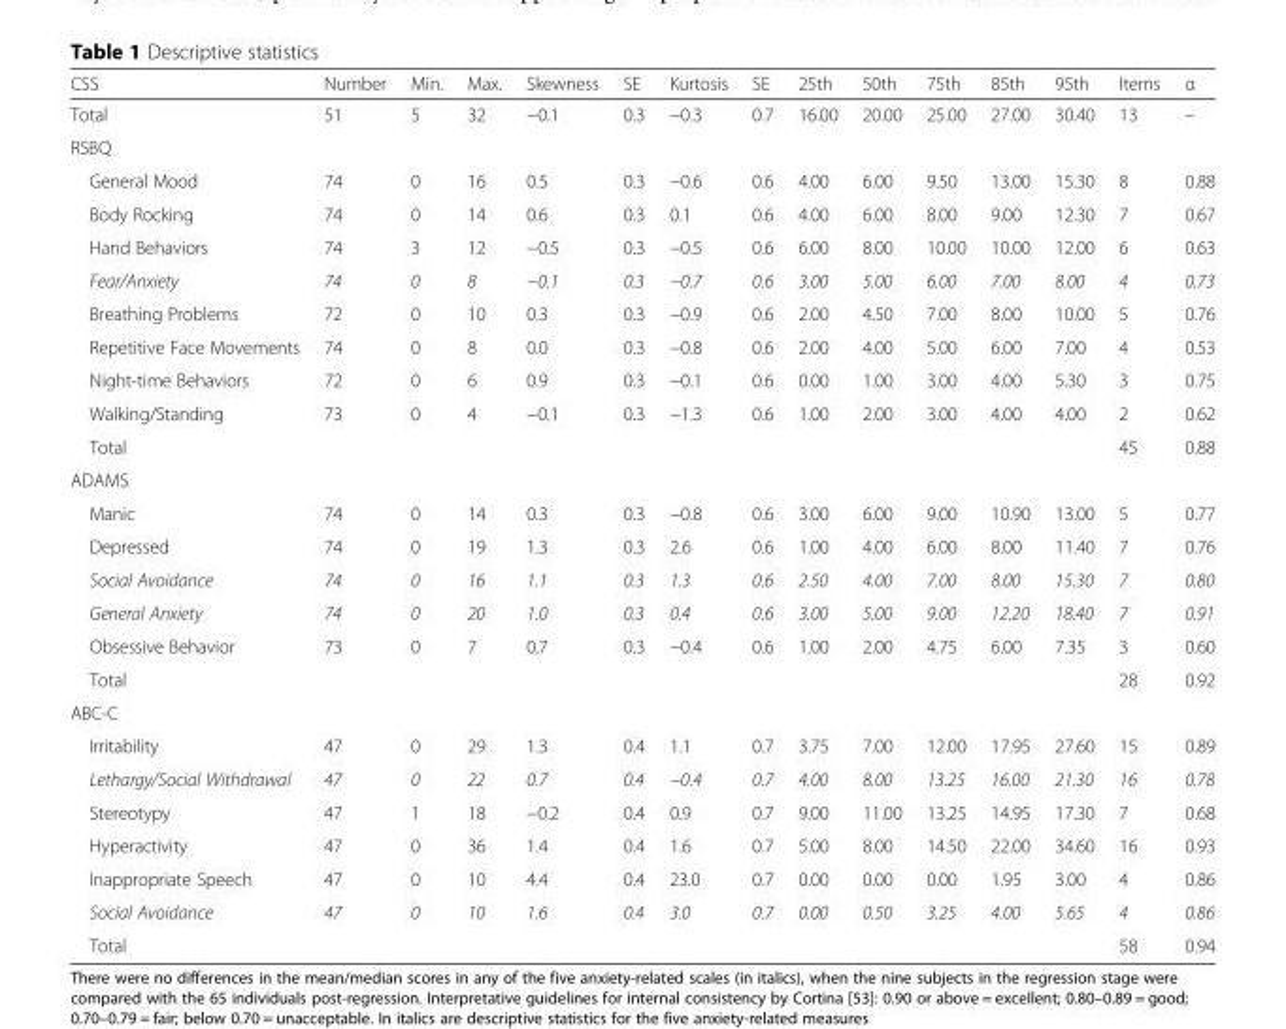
<table><thead><tr><td>CSS</td><td>Number</td><td>Min.</td><td>Max.</td><td>Skewness</td><td>SE</td><td>Kurtosis</td><td>SE</td><td>25th</td><td>50th</td><td>75th</td><td>85th</td><td>95th</td><td>Items</td><td>α</td></tr></thead><tbody><tr><td>Total</td><td>51</td><td>5</td><td>32</td><td>−0.1</td><td>0.3</td><td>−0.3</td><td>0.7</td><td>16.00</td><td>20.00</td><td>25.00</td><td>27.00</td><td>30.40</td><td>13</td><td>–</td></tr><tr><td colspan="15">RSBQ</td></tr><tr><td>General Mood</td><td>74</td><td>0</td><td>16</td><td>0.5</td><td>0.3</td><td>−0.6</td><td>0.6</td><td>4.00</td><td>6.00</td><td>9.50</td><td>13.00</td><td>15.30</td><td>8</td><td>0.88</td></tr><tr><td>Body Rocking</td><td>74</td><td>0</td><td>14</td><td>0.6</td><td>0.3</td><td>0.1</td><td>0.6</td><td>4.00</td><td>6.00</td><td>8.00</td><td>9.00</td><td>12.30</td><td>7</td><td>0.67</td></tr><tr><td>Hand Behaviors</td><td>74</td><td>3</td><td>12</td><td>−0.5</td><td>0.3</td><td>−0.5</td><td>0.6</td><td>6.00</td><td>8.00</td><td>10.00</td><td>10.00</td><td>12.00</td><td>6</td><td>0.63</td></tr><tr><td>Fear/Anxiety</td><td>74</td><td>0</td><td>8</td><td>−0.1</td><td>0.3</td><td>−0.7</td><td>0.6</td><td>3.00</td><td>5.00</td><td>6.00</td><td>7.00</td><td>8.00</td><td>4</td><td>0.73</td></tr><tr><td>Breathing Problems</td><td>72</td><td>0</td><td>10</td><td>0.3</td><td>0.3</td><td>−0.9</td><td>0.6</td><td>2.00</td><td>4.50</td><td>7.00</td><td>8.00</td><td>10.00</td><td>5</td><td>0.76</td></tr><tr><td>Repetitive Face Movements</td><td>74</td><td>0</td><td>8</td><td>0.0</td><td>0.3</td><td>−0.8</td><td>0.6</td><td>2.00</td><td>4.00</td><td>5.00</td><td>6.00</td><td>7.00</td><td>4</td><td>0.53</td></tr><tr><td>Night-time Behaviors</td><td>72</td><td>0</td><td>6</td><td>0.9</td><td>0.3</td><td>−0.1</td><td>0.6</td><td>0.00</td><td>1.00</td><td>3.00</td><td>4.00</td><td>5.30</td><td>3</td><td>0.75</td></tr><tr><td>Walking/Standing</td><td>73</td><td>0</td><td>4</td><td>−0.1</td><td>0.3</td><td>−1.3</td><td>0.6</td><td>1.00</td><td>2.00</td><td>3.00</td><td>4.00</td><td>4.00</td><td>2</td><td>0.62</td></tr><tr><td>Total</td><td></td><td></td><td></td><td></td><td></td><td></td><td></td><td></td><td></td><td></td><td></td><td></td><td>45</td><td>0.88</td></tr><tr><td colspan="15">ADAMS</td></tr><tr><td>Manic</td><td>74</td><td>0</td><td>14</td><td>0.3</td><td>0.3</td><td>−0.8</td><td>0.6</td><td>3.00</td><td>6.00</td><td>9.00</td><td>10.90</td><td>13.00</td><td>5</td><td>0.77</td></tr><tr><td>Depressed</td><td>74</td><td>0</td><td>19</td><td>1.3</td><td>0.3</td><td>2.6</td><td>0.6</td><td>1.00</td><td>4.00</td><td>6.00</td><td>8.00</td><td>11.40</td><td>7</td><td>0.76</td></tr><tr><td>Social Avoidance</td><td>74</td><td>0</td><td>16</td><td>1.1</td><td>0.3</td><td>1.3</td><td>0.6</td><td>2.50</td><td>4.00</td><td>7.00</td><td>8.00</td><td>15.30</td><td>7</td><td>0.80</td></tr><tr><td>General Anxiety</td><td>74</td><td>0</td><td>20</td><td>1.0</td><td>0.3</td><td>0.4</td><td>0.6</td><td>3.00</td><td>5.00</td><td>9.00</td><td>12.20</td><td>18.40</td><td>7</td><td>0.91</td></tr><tr><td>Obsessive Behavior</td><td>73</td><td>0</td><td>7</td><td>0.7</td><td>0.3</td><td>−0.4</td><td>0.6</td><td>1.00</td><td>2.00</td><td>4.75</td><td>6.00</td><td>7.35</td><td>3</td><td>0.60</td></tr><tr><td>Total</td><td></td><td></td><td></td><td></td><td></td><td></td><td></td><td></td><td></td><td></td><td></td><td></td><td>28</td><td>0.92</td></tr><tr><td colspan="15">ABC-C</td></tr><tr><td>Irritability</td><td>47</td><td>0</td><td>29</td><td>1.3</td><td>0.4</td><td>1.1</td><td>0.7</td><td>3.75</td><td>7.00</td><td>12.00</td><td>17.95</td><td>27.60</td><td>15</td><td>0.89</td></tr><tr><td>Lethargy/Social Withdrawal</td><td>47</td><td>0</td><td>22</td><td>0.7</td><td>0.4</td><td>−0.4</td><td>0.7</td><td>4.00</td><td>8.00</td><td>13.25</td><td>16.00</td><td>21.30</td><td>16</td><td>0.78</td></tr><tr><td>Stereotypy</td><td>47</td><td>1</td><td>18</td><td>−0.2</td><td>0.4</td><td>0.9</td><td>0.7</td><td>9.00</td><td>11.00</td><td>13.25</td><td>14.95</td><td>17.30</td><td>7</td><td>0.68</td></tr><tr><td>Hyperactivity</td><td>47</td><td>0</td><td>36</td><td>1.4</td><td>0.4</td><td>1.6</td><td>0.7</td><td>5.00</td><td>8.00</td><td>14.50</td><td>22.00</td><td>34.60</td><td>16</td><td>0.93</td></tr><tr><td>Inappropriate Speech</td><td>47</td><td>0</td><td>10</td><td>4.4</td><td>0.4</td><td>23.0</td><td>0.7</td><td>0.00</td><td>0.00</td><td>0.00</td><td>1.95</td><td>3.00</td><td>4</td><td>0.86</td></tr><tr><td>Social Avoidance</td><td>47</td><td>0</td><td>10</td><td>1.6</td><td>0.4</td><td>3.0</td><td>0.7</td><td>0.00</td><td>0.50</td><td>3.25</td><td>4.00</td><td>5.65</td><td>4</td><td>0.86</td></tr><tr><td>Total</td><td></td><td></td><td></td><td></td><td></td><td></td><td></td><td></td><td></td><td></td><td></td><td></td><td>58</td><td>0.94</td></tr></tbody></table>